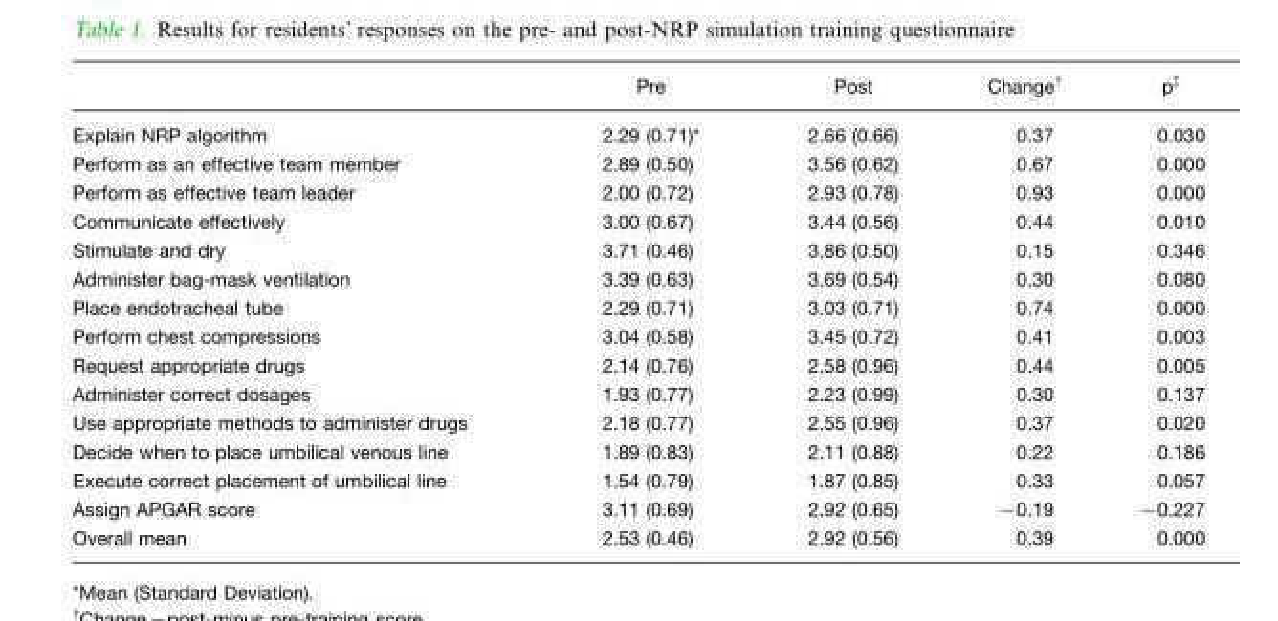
<table><thead><tr><td></td><td>Pre</td><td>Post</td><td>Change†</td><td>p‡</td></tr></thead><tbody><tr><td>Explain NRP algorithm</td><td>2.29 (0.71)*</td><td>2.66 (0.66)</td><td>0.37</td><td>0.030</td></tr><tr><td>Perform as an effective team member</td><td>2.89 (0.50)</td><td>3.56 (0.62)</td><td>0.67</td><td>0.000</td></tr><tr><td>Perform as effective team leader</td><td>2.00 (0.72)</td><td>2.93 (0.78)</td><td>0.93</td><td>0.000</td></tr><tr><td>Communicate effectively</td><td>3.00 (0.67)</td><td>3.44 (0.56)</td><td>0.44</td><td>0.010</td></tr><tr><td>Stimulate and dry</td><td>3.71 (0.46)</td><td>3.86 (0.50)</td><td>0.15</td><td>0.346</td></tr><tr><td>Administer bag-mask ventilation</td><td>3.39 (0.63)</td><td>3.69 (0.54)</td><td>0.30</td><td>0.080</td></tr><tr><td>Place endotracheal tube</td><td>2.29 (0.71)</td><td>3.03 (0.71)</td><td>0.74</td><td>0.000</td></tr><tr><td>Perform chest compressions</td><td>3.04 (0.58)</td><td>3.45 (0.72)</td><td>0.41</td><td>0.003</td></tr><tr><td>Request appropriate drugs</td><td>2.14 (0.76)</td><td>2.58 (0.96)</td><td>0.44</td><td>0.005</td></tr><tr><td>Administer correct dosages</td><td>1.93 (0.77)</td><td>2.23 (0.99)</td><td>0.30</td><td>0.137</td></tr><tr><td>Use appropriate methods to administer drugs</td><td>2.18 (0.77)</td><td>2.55 (0.96)</td><td>0.37</td><td>0.020</td></tr><tr><td>Decide when to place umbilical venous line</td><td>1.89 (0.83)</td><td>2.11 (0.88)</td><td>0.22</td><td>0.186</td></tr><tr><td>Execute correct placement of umbilical line</td><td>1.54 (0.79)</td><td>1.87 (0.85)</td><td>0.33</td><td>0.057</td></tr><tr><td>Assign APGAR score</td><td>3.11 (0.69)</td><td>2.92 (0.65)</td><td>−0.19</td><td>−0.227</td></tr><tr><td>Overall mean</td><td>2.53 (0.46)</td><td>2.92 (0.56)</td><td>0.39</td><td>0.000</td></tr></tbody></table>